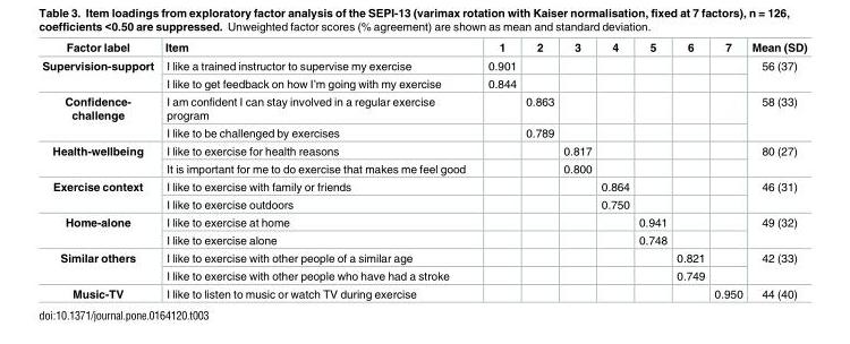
<table><thead><tr><td>Factor label</td><td>Item</td><td>1</td><td>2</td><td>3</td><td>4</td><td>5</td><td>6</td><td>7</td><td>Mean (SD)</td></tr></thead><tbody><tr><td rowspan="2">Supervision-support</td><td>I like a trained instructor to supervise my exercise</td><td>0.901</td><td></td><td></td><td></td><td></td><td></td><td></td><td rowspan="2">56 (37)</td></tr><tr><td>I like to get feedback on how I’m going with my exercise</td><td>0.844</td><td></td><td></td><td></td><td></td><td></td><td></td></tr><tr><td rowspan="2">Confidence- challenge</td><td>I am confident I can stay involved in a regular exercise program</td><td></td><td>0.863</td><td></td><td></td><td></td><td></td><td></td><td rowspan="2">58 (33)</td></tr><tr><td>I like to be challenged by exercises</td><td></td><td>0.789</td><td></td><td></td><td></td><td></td><td></td></tr><tr><td rowspan="2">Health-wellbeing</td><td>I like to exercise for health reasons</td><td></td><td></td><td>0.817</td><td></td><td></td><td></td><td></td><td rowspan="2">80 (27)</td></tr><tr><td>It is important for me to do exercise that makes me feel good</td><td></td><td></td><td>0.800</td><td></td><td></td><td></td><td></td></tr><tr><td rowspan="2">Exercise context</td><td>I like to exercise with family or friends</td><td></td><td></td><td></td><td>0.864</td><td></td><td></td><td></td><td rowspan="2">46 (31)</td></tr><tr><td>I like to exercise outdoors</td><td></td><td></td><td></td><td>0.750</td><td></td><td></td><td></td></tr><tr><td rowspan="2">Home-alone</td><td>I like to exercise at home</td><td></td><td></td><td></td><td></td><td>0.941</td><td></td><td></td><td rowspan="2">49 (32)</td></tr><tr><td>I like to exercise alone</td><td></td><td></td><td></td><td></td><td>0.748</td><td></td><td></td></tr><tr><td rowspan="2">Similar others</td><td>I like to exercise with other people of a similar age</td><td></td><td></td><td></td><td></td><td></td><td>0.821</td><td></td><td rowspan="2">42 (33)</td></tr><tr><td>I like to exercise with other people who have had a stroke</td><td></td><td></td><td></td><td></td><td></td><td>0.749</td><td></td></tr><tr><td>Music-TV</td><td>I like to listen to music or watch TV during exercise</td><td></td><td></td><td></td><td></td><td></td><td></td><td>0.950</td><td>44 (40)</td></tr></tbody></table>